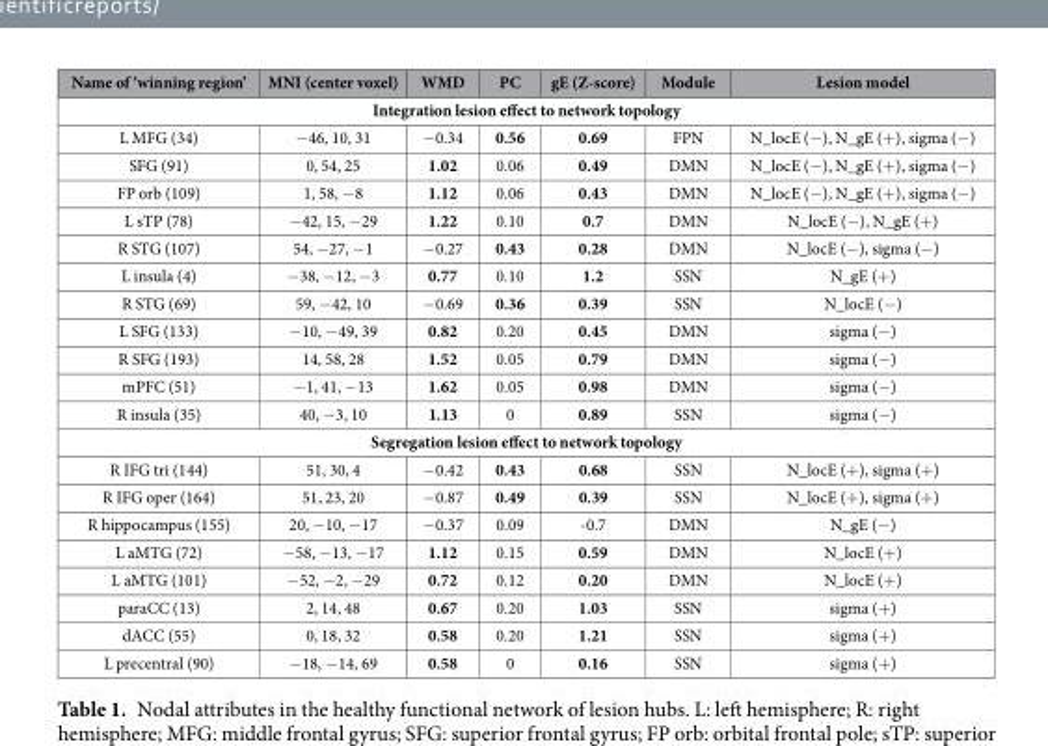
<table><thead><tr><td>Name of ‘winning region’</td><td>MNI (center voxel)</td><td>WMD</td><td>PC</td><td>gE (Z-score)</td><td>Module</td><td>Lesion model</td></tr></thead><tbody><tr><td colspan="7">Integration lesion effect to network topology</td></tr><tr><td>L MFG (34)</td><td>−46, 10, 31</td><td>−0.34</td><td>0.56</td><td>0.69</td><td>FPN</td><td>N_locE (−), N_gE (+), sigma (−)</td></tr><tr><td>SFG (91)</td><td>0, 54, 25</td><td>1.02</td><td>0.06</td><td>0.49</td><td>DMN</td><td>N_locE (−), N_gE (+), sigma (−)</td></tr><tr><td>FP orb (109)</td><td>1, 58, −8</td><td>1.12</td><td>0.06</td><td>0.43</td><td>DMN</td><td>N_locE (−), N_gE (+), sigma (−)</td></tr><tr><td>L sTP (78)</td><td>−42, 15, −29</td><td>1.22</td><td>0.10</td><td>0.7</td><td>DMN</td><td>N_locE (−), N_gE (+)</td></tr><tr><td>R STG (107)</td><td>54, −27, −1</td><td>−0.27</td><td>0.43</td><td>0.28</td><td>DMN</td><td>N_locE (−), sigma (−)</td></tr><tr><td>L insula (4)</td><td>−38, −12, −3</td><td>0.77</td><td>0.10</td><td>1.2</td><td>SSN</td><td>N_gE (+)</td></tr><tr><td>R STG (69)</td><td>59, −42, 10</td><td>−0.69</td><td>0.36</td><td>0.39</td><td>SSN</td><td>N_locE (−)</td></tr><tr><td>L SFG (133)</td><td>−10, −49, 39</td><td>0.82</td><td>0.20</td><td>0.45</td><td>DMN</td><td>sigma (−)</td></tr><tr><td>R SFG (193)</td><td>14, 58, 28</td><td>1.52</td><td>0.05</td><td>0.79</td><td>DMN</td><td>sigma (−)</td></tr><tr><td>mPFC (51)</td><td>−1, 41, −13</td><td>1.62</td><td>0.05</td><td>0.98</td><td>DMN</td><td>sigma (−)</td></tr><tr><td>R insula (35)</td><td>40, −3, 10</td><td>1.13</td><td>0</td><td>0.89</td><td>SSN</td><td>sigma (−)</td></tr><tr><td colspan="7">Segregation lesion effect to network topology</td></tr><tr><td>R IFG tri (144)</td><td>51, 30, 4</td><td>−0.42</td><td>0.43</td><td>0.68</td><td>SSN</td><td>N_locE (+), sigma (+)</td></tr><tr><td>R IFG oper (164)</td><td>51, 23, 20</td><td>−0.87</td><td>0.49</td><td>0.39</td><td>SSN</td><td>N_locE (+), sigma (+)</td></tr><tr><td>R hippocampus (155)</td><td>20, −10, −17</td><td>−0.37</td><td>0.09</td><td>-0.7</td><td>DMN</td><td>N_gE (−)</td></tr><tr><td>L aMTG (72)</td><td>−58, −13, −17</td><td>1.12</td><td>0.15</td><td>0.59</td><td>DMN</td><td>N_locE (+)</td></tr><tr><td>L aMTG (101)</td><td>−52, −2, −29</td><td>0.72</td><td>0.12</td><td>0.20</td><td>DMN</td><td>N_locE (+)</td></tr><tr><td>paraCC (13)</td><td>2, 14, 48</td><td>0.67</td><td>0.20</td><td>1.03</td><td>SSN</td><td>sigma (+)</td></tr><tr><td>dACC (55)</td><td>0, 18, 32</td><td>0.58</td><td>0.20</td><td>1.21</td><td>SSN</td><td>sigma (+)</td></tr><tr><td>L precentral (90)</td><td>−18, −14, 69</td><td>0.58</td><td>0</td><td>0.16</td><td>SSN</td><td>sigma (+)</td></tr></tbody></table>